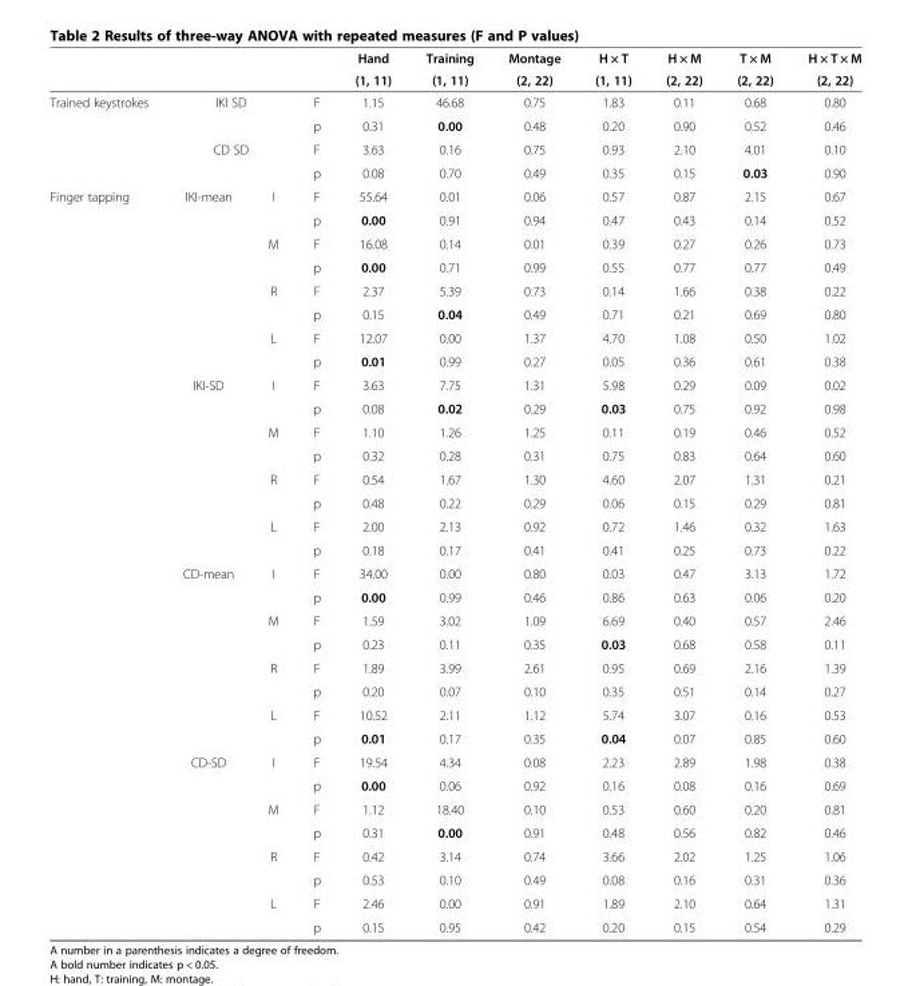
<table><thead><tr><td rowspan="2"></td><td rowspan="2"></td><td rowspan="2"></td><td rowspan="2"></td><td rowspan="2">Hand (1, 11)</td><td rowspan="2">Training (1, 11)</td><td rowspan="2">Montage (2, 22)</td><td rowspan="2">H × T (1, 11)</td><td rowspan="2">H × M (2, 22)</td><td rowspan="2">T × M (2, 22)</td><td rowspan="2">H × T × M (2, 22)</td></tr><tr></tr></thead><tbody><tr><td rowspan="4">Trained keystrokes</td><td rowspan="2">IKI SD</td><td></td><td>F</td><td>1.15</td><td>46.68</td><td>0.75</td><td>1.83</td><td>0.11</td><td>0.68</td><td>0.80</td></tr><tr><td></td><td>p</td><td>0.31</td><td>0.00</td><td>0.48</td><td>0.20</td><td>0.90</td><td>0.52</td><td>0.46</td></tr><tr><td rowspan="2">CD SD</td><td></td><td>F</td><td>3.63</td><td>0.16</td><td>0.75</td><td>0.93</td><td>2.10</td><td>4.01</td><td>0.10</td></tr><tr><td></td><td>p</td><td>0.08</td><td>0.70</td><td>0.49</td><td>0.35</td><td>0.15</td><td>0.03</td><td>0.90</td></tr><tr><td rowspan="32">Finger tapping</td><td rowspan="8">IKI-mean</td><td rowspan="2">I</td><td>F</td><td>55.64</td><td>0.01</td><td>0.06</td><td>0.57</td><td>0.87</td><td>2.15</td><td>0.67</td></tr><tr><td>p</td><td>0.00</td><td>0.91</td><td>0.94</td><td>0.47</td><td>0.43</td><td>0.14</td><td>0.52</td></tr><tr><td rowspan="2">M</td><td>F</td><td>16.08</td><td>0.14</td><td>0.01</td><td>0.39</td><td>0.27</td><td>0.26</td><td>0.73</td></tr><tr><td>p</td><td>0.00</td><td>0.71</td><td>0.99</td><td>0.55</td><td>0.77</td><td>0.77</td><td>0.49</td></tr><tr><td rowspan="2">R</td><td>F</td><td>2.37</td><td>5.39</td><td>0.73</td><td>0.14</td><td>1.66</td><td>0.38</td><td>0.22</td></tr><tr><td>p</td><td>0.15</td><td>0.04</td><td>0.49</td><td>0.71</td><td>0.21</td><td>0.69</td><td>0.80</td></tr><tr><td rowspan="2">L</td><td>F</td><td>12.07</td><td>0.00</td><td>1.37</td><td>4.70</td><td>1.08</td><td>0.50</td><td>1.02</td></tr><tr><td>p</td><td>0.01</td><td>0.99</td><td>0.27</td><td>0.05</td><td>0.36</td><td>0.61</td><td>0.38</td></tr><tr><td rowspan="8">IKI-SD</td><td rowspan="2">I</td><td>F</td><td>3.63</td><td>7.75</td><td>1.31</td><td>5.98</td><td>0.29</td><td>0.09</td><td>0.02</td></tr><tr><td>p</td><td>0.08</td><td>0.02</td><td>0.29</td><td>0.03</td><td>0.75</td><td>0.92</td><td>0.98</td></tr><tr><td rowspan="2">M</td><td>F</td><td>1.10</td><td>1.26</td><td>1.25</td><td>0.11</td><td>0.19</td><td>0.46</td><td>0.52</td></tr><tr><td>p</td><td>0.32</td><td>0.28</td><td>0.31</td><td>0.75</td><td>0.83</td><td>0.64</td><td>0.60</td></tr><tr><td rowspan="2">R</td><td>F</td><td>0.54</td><td>1.67</td><td>1.30</td><td>4.60</td><td>2.07</td><td>1.31</td><td>0.21</td></tr><tr><td>p</td><td>0.48</td><td>0.22</td><td>0.29</td><td>0.06</td><td>0.15</td><td>0.29</td><td>0.81</td></tr><tr><td rowspan="2">L</td><td>F</td><td>2.00</td><td>2.13</td><td>0.92</td><td>0.72</td><td>1.46</td><td>0.32</td><td>1.63</td></tr><tr><td>p</td><td>0.18</td><td>0.17</td><td>0.41</td><td>0.41</td><td>0.25</td><td>0.73</td><td>0.22</td></tr><tr><td rowspan="8">CD-mean</td><td rowspan="2">I</td><td>F</td><td>34.00</td><td>0.00</td><td>0.80</td><td>0.03</td><td>0.47</td><td>3.13</td><td>1.72</td></tr><tr><td>p</td><td>0.00</td><td>0.99</td><td>0.46</td><td>0.86</td><td>0.63</td><td>0.06</td><td>0.20</td></tr><tr><td rowspan="2">M</td><td>F</td><td>1.59</td><td>3.02</td><td>1.09</td><td>6.69</td><td>0.40</td><td>0.57</td><td>2.46</td></tr><tr><td>p</td><td>0.23</td><td>0.11</td><td>0.35</td><td>0.03</td><td>0.68</td><td>0.58</td><td>0.11</td></tr><tr><td rowspan="2">R</td><td>F</td><td>1.89</td><td>3.99</td><td>2.61</td><td>0.95</td><td>0.69</td><td>2.16</td><td>1.39</td></tr><tr><td>p</td><td>0.20</td><td>0.07</td><td>0.10</td><td>0.35</td><td>0.51</td><td>0.14</td><td>0.27</td></tr><tr><td rowspan="2">L</td><td>F</td><td>10.52</td><td>2.11</td><td>1.12</td><td>5.74</td><td>3.07</td><td>0.16</td><td>0.53</td></tr><tr><td>p</td><td>0.01</td><td>0.17</td><td>0.35</td><td>0.04</td><td>0.07</td><td>0.85</td><td>0.60</td></tr><tr><td rowspan="8">CD-SD</td><td rowspan="2">I</td><td>F</td><td>19.54</td><td>4.34</td><td>0.08</td><td>2.23</td><td>2.89</td><td>1.98</td><td>0.38</td></tr><tr><td>p</td><td>0.00</td><td>0.06</td><td>0.92</td><td>0.16</td><td>0.08</td><td>0.16</td><td>0.69</td></tr><tr><td rowspan="2">M</td><td>F</td><td>1.12</td><td>18.40</td><td>0.10</td><td>0.53</td><td>0.60</td><td>0.20</td><td>0.81</td></tr><tr><td>p</td><td>0.31</td><td>0.00</td><td>0.91</td><td>0.48</td><td>0.56</td><td>0.82</td><td>0.46</td></tr><tr><td rowspan="2">R</td><td>F</td><td>0.42</td><td>3.14</td><td>0.74</td><td>3.66</td><td>2.02</td><td>1.25</td><td>1.06</td></tr><tr><td>p</td><td>0.53</td><td>0.10</td><td>0.49</td><td>0.08</td><td>0.16</td><td>0.31</td><td>0.36</td></tr><tr><td rowspan="2">L</td><td>F</td><td>2.46</td><td>0.00</td><td>0.91</td><td>1.89</td><td>2.10</td><td>0.64</td><td>1.31</td></tr><tr><td>p</td><td>0.15</td><td>0.95</td><td>0.42</td><td>0.20</td><td>0.15</td><td>0.54</td><td>0.29</td></tr></tbody></table>